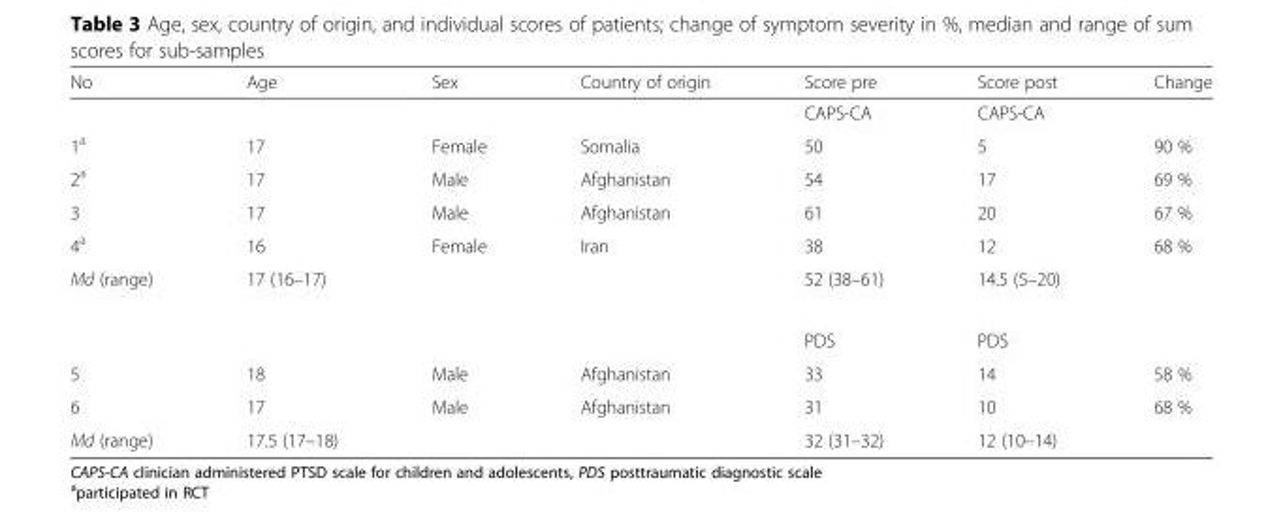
<table><thead><tr><td>No</td><td>Age</td><td>Sex</td><td>Country of origin</td><td>Score pre</td><td>Score post</td><td>Change</td></tr></thead><tbody><tr><td></td><td></td><td></td><td></td><td>CAPS-CA</td><td>CAPS-CA</td><td></td></tr><tr><td>1<sup>a</sup></td><td>17</td><td>Female</td><td>Somalia</td><td>50</td><td>5</td><td>90 %</td></tr><tr><td>2<sup>a</sup></td><td>17</td><td>Male</td><td>Afghanistan</td><td>54</td><td>17</td><td>69 %</td></tr><tr><td>3</td><td>17</td><td>Male</td><td>Afghanistan</td><td>61</td><td>20</td><td>67 %</td></tr><tr><td>4<sup>a</sup></td><td>16</td><td>Female</td><td>Iran</td><td>38</td><td>12</td><td>68 %</td></tr><tr><td rowspan="2">Md (range)</td><td>17 (16–17)</td><td></td><td></td><td>52 (38–61)</td><td>14.5 (5–20)</td><td></td></tr><tr><td></td><td></td><td></td><td>PDS</td><td>PDS</td><td></td></tr><tr><td>5</td><td>18</td><td>Male</td><td>Afghanistan</td><td>33</td><td>14</td><td>58 %</td></tr><tr><td>6</td><td>17</td><td>Male</td><td>Afghanistan</td><td>31</td><td>10</td><td>68 %</td></tr><tr><td>Md (range)</td><td>17.5 (17–18)</td><td></td><td></td><td>32 (31–32)</td><td>12 (10–14)</td><td></td></tr></tbody></table>